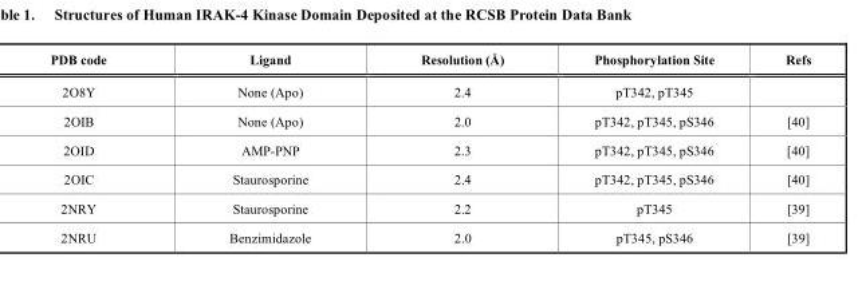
<table><thead><tr><td>PDB code</td><td>Ligand</td><td>Resolution (Å)</td><td>Phosphorylation Site</td><td>Refs</td></tr></thead><tbody><tr><td>2O8Y</td><td>None (Apo)</td><td>2.4</td><td>pT342, pT345</td><td></td></tr><tr><td>2OIB</td><td>None (Apo)</td><td>2.0</td><td>pT342, pT345, pS346</td><td>[40]</td></tr><tr><td>2OID</td><td>AMP-PNP</td><td>2.3</td><td>pT342, pT345, pS346</td><td>[40]</td></tr><tr><td>2OIC</td><td>Staurosporine</td><td>2.4</td><td>pT342, pT345, pS346</td><td>[40]</td></tr><tr><td>2NRY</td><td>Staurosporine</td><td>2.2</td><td>pT345</td><td>[39]</td></tr><tr><td>2NRU</td><td>Benzimidazole</td><td>2.0</td><td>pT345, pS346</td><td>[39]</td></tr></tbody></table>